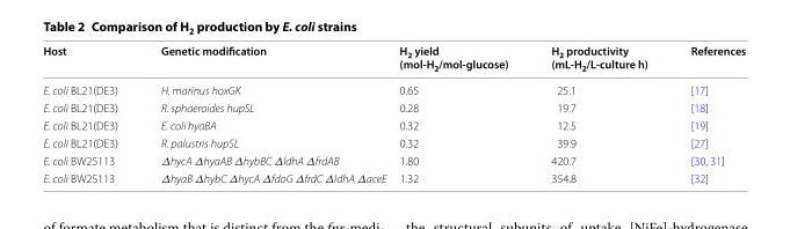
<table><thead><tr><td>Host</td><td>Genetic modification</td><td>H<sub>2</sub> yield (mol-H<sub>2</sub>/mol-glucose)</td><td>H<sub>2</sub> productivity (mL-H<sub>2</sub>/L-culture h)</td><td>References</td></tr></thead><tbody><tr><td>E. coli BL21(DE3)</td><td>H. marinus hoxGK</td><td>0.65</td><td>25.1</td><td>[17]</td></tr><tr><td>E. coli BL21(DE3)</td><td>R. sphaeroides hupSL</td><td>0.28</td><td>19.7</td><td>[18]</td></tr><tr><td>E. coli BL21(DE3)</td><td>E. coli hyaBA</td><td>0.32</td><td>12.5</td><td>[19]</td></tr><tr><td>E. coli BL21(DE3)</td><td>R. palustris hupSL</td><td>0.32</td><td>39.9</td><td>[27]</td></tr><tr><td>E. coli BW25113</td><td>ΔhycA ΔhyaAB ΔhybBC ΔldhA ΔfrdAB</td><td>1.80</td><td>420.7</td><td>[30, 31]</td></tr><tr><td>E. coli BW25113</td><td>ΔhyaB ΔhybC ΔhycA ΔfdoG ΔfrdC ΔldhA ΔaceE</td><td>1.32</td><td>354.8</td><td>[32]</td></tr></tbody></table>